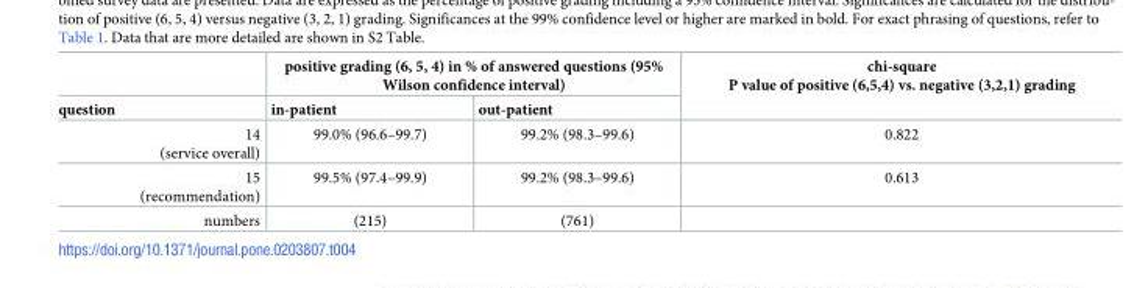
<table><thead><tr><td rowspan="2">question</td><td colspan="2">positive grading (6, 5, 4) in % of answered questions (95% Wilson confidence interval)</td><td rowspan="2">chi-square P value of positive (6,5,4) vs. negative (3,2,1) grading</td></tr><tr><td>in-patient</td><td>out-patient</td></tr></thead><tbody><tr><td>14 (service overall)</td><td>99.0% (96.6–99.7)</td><td>99.2% (98.3–99.6)</td><td>0.822</td></tr><tr><td>15 (recommendation)</td><td>99.5% (97.4–99.9)</td><td>99.2% (98.3–99.6)</td><td>0.613</td></tr><tr><td>numbers</td><td>(215)</td><td>(761)</td><td></td></tr></tbody></table>